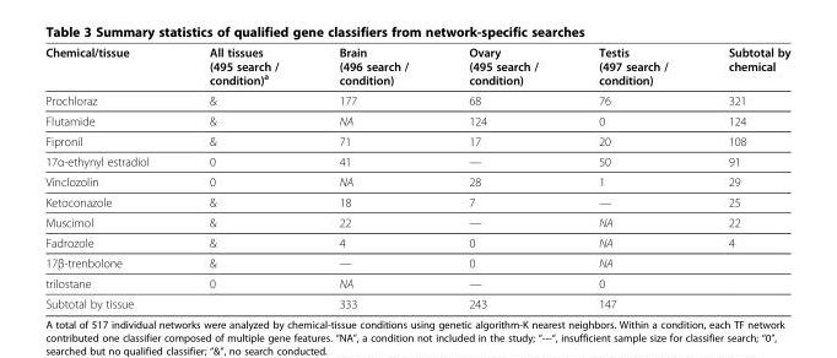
<table><thead><tr><td>Chemical/tissue</td><td>All tissues (495 search / condition)<sup>a</sup></td><td>Brain (496 search / condition)</td><td>Ovary (495 search / condition)</td><td>Testis (497 search / condition)</td><td>Subtotal by chemical</td></tr></thead><tbody><tr><td>Prochloraz</td><td>&amp;</td><td>177</td><td>68</td><td>76</td><td>321</td></tr><tr><td>Flutamide</td><td>&amp;</td><td>NA</td><td>124</td><td>0</td><td>124</td></tr><tr><td>Fipronil</td><td>&amp;</td><td>71</td><td>17</td><td>20</td><td>108</td></tr><tr><td>17α-ethynyl estradiol</td><td>0</td><td>41</td><td>—</td><td>50</td><td>91</td></tr><tr><td>Vinclozolin</td><td>0</td><td>NA</td><td>28</td><td>1</td><td>29</td></tr><tr><td>Ketoconazole</td><td>&amp;</td><td>18</td><td>7</td><td>—</td><td>25</td></tr><tr><td>Muscimol</td><td>&amp;</td><td>22</td><td>—</td><td>NA</td><td>22</td></tr><tr><td>Fadrozole</td><td>&amp;</td><td>4</td><td>0</td><td>NA</td><td>4</td></tr><tr><td>17β-trenbolone</td><td>&amp;</td><td>—</td><td>0</td><td>NA</td><td></td></tr><tr><td>trilostane</td><td>0</td><td>NA</td><td>—</td><td>0</td><td></td></tr><tr><td>Subtotal by tissue</td><td></td><td>333</td><td>243</td><td>147</td><td></td></tr></tbody></table>